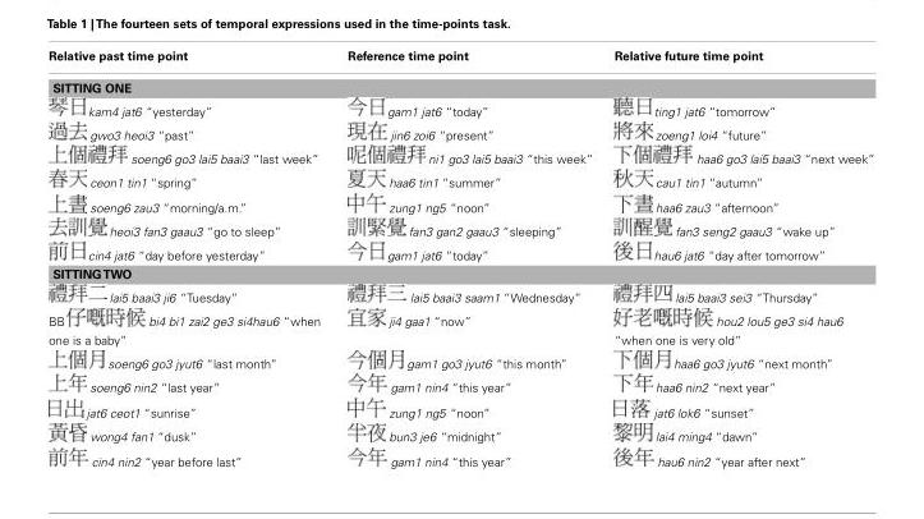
<table><thead><tr><td>Relative past time point</td><td>Reference time point</td><td>Relative future time point</td></tr></thead><tbody><tr><td colspan="3">SITTING ONE</td></tr><tr><td>kam4 jat6 “yesterday”</td><td>gam1 jat6 “today”</td><td>ting1 jat6 “tomorrow”</td></tr><tr><td>gwo3 heoi3 “past”</td><td>jin6 zoi6 “present”</td><td>zoeng1 loi4 “future”</td></tr><tr><td>soeng6 go3 lai5 baai3 “last week”</td><td>ni1 go3 lai5 baai3 “this week”</td><td>haa6 go3 lai5 baai3 “next week”</td></tr><tr><td>ceon1 tin1 “spring”</td><td>haa6 tin1 “summer”</td><td>cau1 tin1 “autumn”</td></tr><tr><td>soeng6 zau3 “morning/a.m.”</td><td>zung1 ng5 “noon”</td><td>haa6 zau3 “afternoon”</td></tr><tr><td>heoi3 fan3 gaau3 “go to sleep”</td><td>fan3 gan2 gaau3 “sleeping”</td><td>fan3 seng2 gaau3 “wake up”</td></tr><tr><td>cin4 jat6 “day before yesterday”</td><td>gam1 jat6 “today”</td><td>hau6 jat6 “day after tomorrow”</td></tr><tr><td colspan="3">SITTINGTWO</td></tr><tr><td>lai5 baai3 ji6 “Tuesday”</td><td>lai5 baai3 saam1 “Wednesday”</td><td>lai5 baai3 sei3 “Thursday”</td></tr><tr><td>BB bi4 bi1 zai2 ge3 si4hau6 “when one is a baby”</td><td>ji4 gaa1 “now”</td><td>hou2 lou5 ge3 si4 hau6 “when one is very old”</td></tr><tr><td>soeng6 go3 jyut6 “last month”</td><td>gam1 go3 jyut6 “this month”</td><td>haa6 go3 jyut6 “next month”</td></tr><tr><td>soeng6 nin2 “last year”</td><td>gam1 nin4 “this year”</td><td>haa6 nin2 “next year”</td></tr><tr><td>jat6 ceot1 “sunrise”</td><td>zung1 ng5 “noon”</td><td>jat6 lok6 “sunset”</td></tr><tr><td>wong4 fan1 “dusk”</td><td>bun3 je6 “midnight”</td><td>lai4 ming4 “dawn”</td></tr><tr><td>cin4 nin2 “year before last”</td><td>gam1 nin4 “this year”</td><td>hau6 nin2 “year after next”</td></tr></tbody></table>